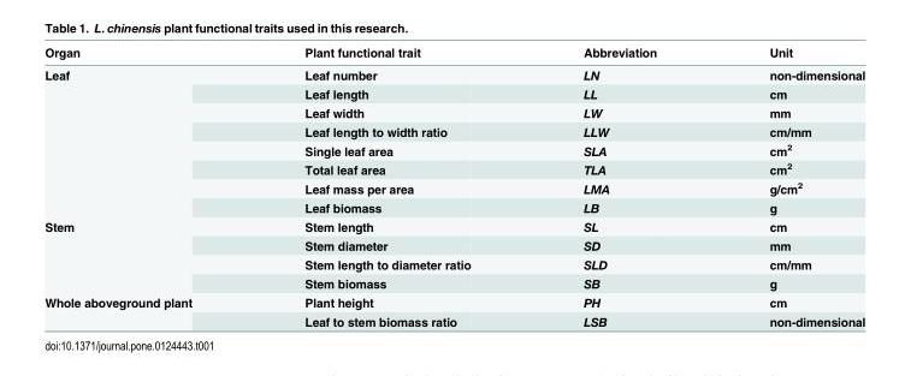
<table><thead><tr><td>Organ</td><td>Plant functional trait</td><td>Abbreviation</td><td>Unit</td></tr></thead><tbody><tr><td rowspan="8">Leaf</td><td>Leaf number</td><td>LN</td><td>non-dimensional</td></tr><tr><td>Leaf length</td><td>LL</td><td>cm</td></tr><tr><td>Leaf width</td><td>LW</td><td>mm</td></tr><tr><td>Leaf length to width ratio</td><td>LLW</td><td>cm/mm</td></tr><tr><td>Single leaf area</td><td>SLA</td><td>cm<sup>2</sup></td></tr><tr><td>Total leaf area</td><td>TLA</td><td>cm<sup>2</sup></td></tr><tr><td>Leaf mass per area</td><td>LMA</td><td>g/cm<sup>2</sup></td></tr><tr><td>Leaf biomass</td><td>LB</td><td>g</td></tr><tr><td rowspan="4">Stem</td><td>Stem length</td><td>SL</td><td>cm</td></tr><tr><td>Stem diameter</td><td>SD</td><td>mm</td></tr><tr><td>Stem length to diameter ratio</td><td>SLD</td><td>cm/mm</td></tr><tr><td>Stem biomass</td><td>SB</td><td>g</td></tr><tr><td rowspan="2">Whole aboveground plant</td><td>Plant height</td><td>PH</td><td>cm</td></tr><tr><td>Leaf to stem biomass ratio</td><td>LSB</td><td>non-dimensional</td></tr></tbody></table>